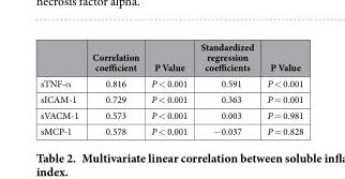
<table><thead><tr><td></td><td>Correlation coefficient</td><td>P Value</td><td>Standardized regression coefficients</td><td>P Value</td></tr></thead><tbody><tr><td>sTNF-α</td><td>0.816</td><td>P &lt; 0.001</td><td>0.591</td><td>P &lt; 0.001</td></tr><tr><td>sICAM-1</td><td>0.729</td><td>P &lt; 0.001</td><td>0.363</td><td>P = 0.001</td></tr><tr><td>sVACM-1</td><td>0.573</td><td>P &lt; 0.001</td><td>0.003</td><td>P = 0.981</td></tr><tr><td>sMCP-1</td><td>0.578</td><td>P &lt; 0.001</td><td>- 0.037</td><td>P = 0.828</td></tr></tbody></table>